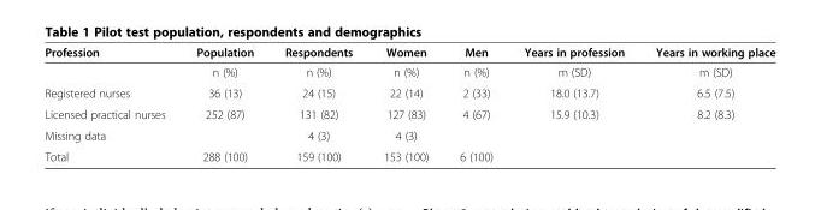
<table><thead><tr><td>Profession</td><td>Population</td><td>Respondents</td><td>Women</td><td>Men</td><td>Years in profession</td><td>Years in working place</td></tr></thead><tbody><tr><td></td><td>n (%)</td><td>n (%)</td><td>n (%)</td><td>n (%)</td><td>m (SD)</td><td>m (SD)</td></tr><tr><td>Registered nurses</td><td>36 (13)</td><td>24 (15)</td><td>22 (14)</td><td>2 (33)</td><td>18.0 (13.7)</td><td>6.5 (7.5)</td></tr><tr><td>Licensed practical nurses</td><td>252 (87)</td><td>131 (82)</td><td>127 (83)</td><td>4 (67)</td><td>15.9 (10.3)</td><td>8.2 (8.3)</td></tr><tr><td>Missing data</td><td></td><td>4 (3)</td><td>4 (3)</td><td></td><td></td><td></td></tr><tr><td>Total</td><td>288 (100)</td><td>159 (100)</td><td>153 (100)</td><td>6 (100)</td><td></td><td></td></tr></tbody></table>